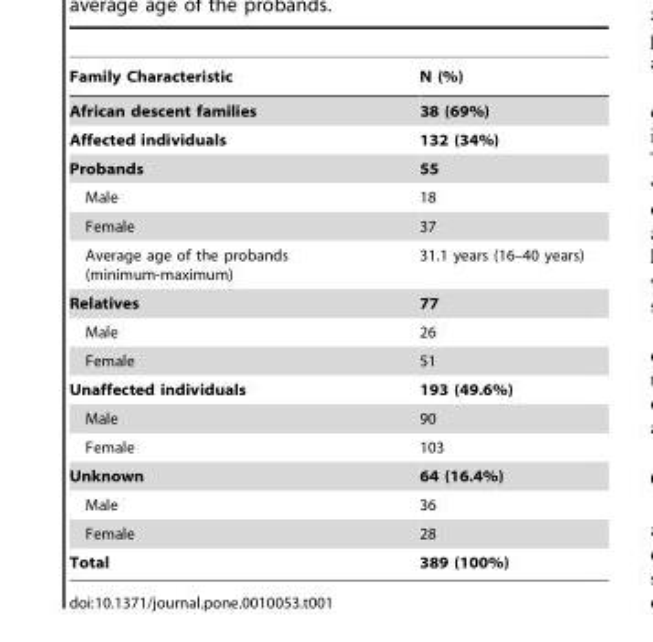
<table><thead><tr><td>Family Characteristic</td><td>N (%)</td></tr></thead><tbody><tr><td>African descent families</td><td>38 (69%)</td></tr><tr><td>Affected individuals</td><td>132 (34%)</td></tr><tr><td>Probands</td><td>55</td></tr><tr><td>Male</td><td>18</td></tr><tr><td>Female</td><td>37</td></tr><tr><td>Average age of the probands (minimum-maximum)</td><td>31.1 years (16–40 years)</td></tr><tr><td>Relatives</td><td>77</td></tr><tr><td>Male</td><td>26</td></tr><tr><td>Female</td><td>51</td></tr><tr><td>Unaffected individuals</td><td>193 (49.6%)</td></tr><tr><td>Male</td><td>90</td></tr><tr><td>Female</td><td>103</td></tr><tr><td>Unknown</td><td>64 (16.4%)</td></tr><tr><td>Male</td><td>36</td></tr><tr><td>Female</td><td>28</td></tr><tr><td>Total</td><td>389 (100%)</td></tr></tbody></table>